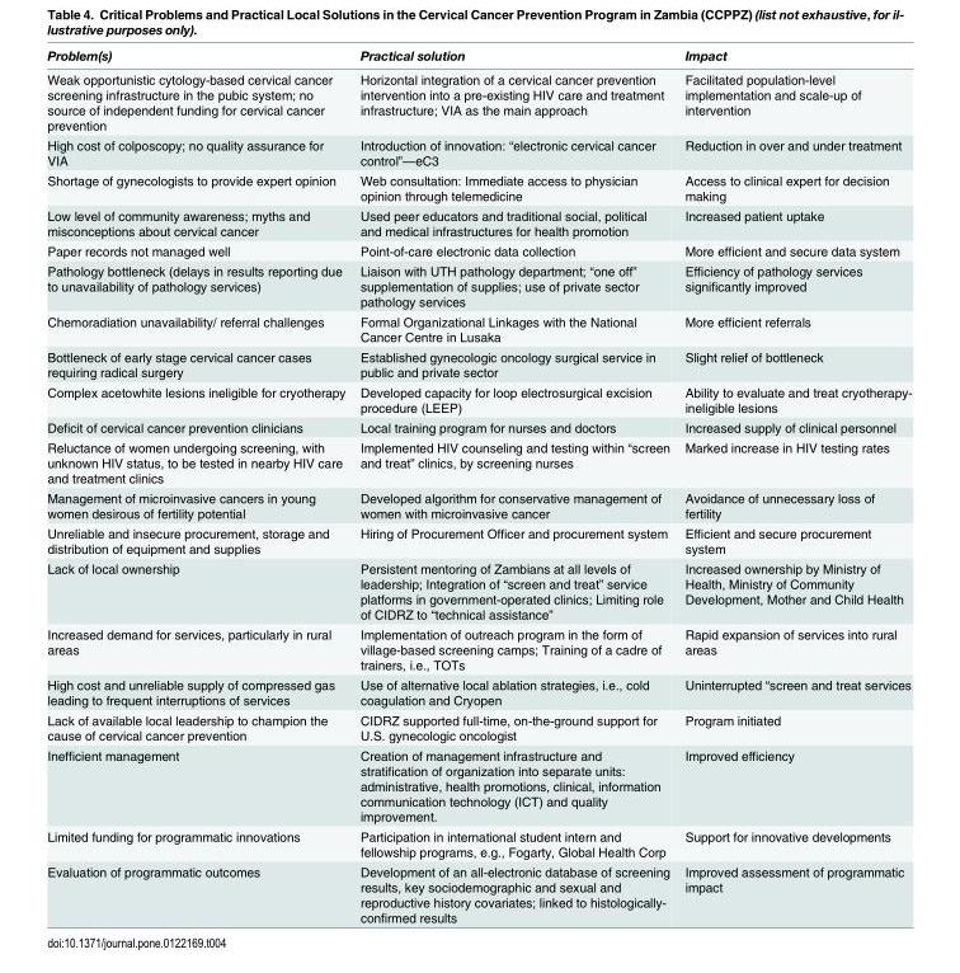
<table><thead><tr><td>Problem(s)</td><td>Practical solution</td><td>Impact</td></tr></thead><tbody><tr><td>Weak opportunistic cytology-based cervical cancer screening infrastructure in the pubic system; no source of independent funding for cervical cancer prevention</td><td>Horizontal integration of a cervical cancer prevention intervention into a pre-existing HIV care and treatment infrastructure; VIA as the main approach</td><td>Facilitated population-level implementation and scale-up of intervention</td></tr><tr><td>High cost of colposcopy; no quality assurance for VIA</td><td>Introduction of innovation: “electronic cervical cancer control”—eC3</td><td>Reduction in over and under treatment</td></tr><tr><td>Shortage of gynecologists to provide expert opinion</td><td>Web consultation: Immediate access to physician opinion through telemedicine</td><td>Access to clinical expert for decision making</td></tr><tr><td>Low level of community awareness; myths and misconceptions about cervical cancer</td><td>Used peer educators and traditional social, political and medical infrastructures for health promotion</td><td>Increased patient uptake</td></tr><tr><td>Paper records not managed well</td><td>Point-of-care electronic data collection</td><td>More efficient and secure data system</td></tr><tr><td>Pathology bottleneck (delays in results reporting due to unavailability of pathology services)</td><td>Liaison with UTH pathology department; “one off” supplementation of supplies; use of private sector pathology services</td><td>Efficiency of pathology services significantly improved</td></tr><tr><td>Chemoradiation unavailability/ referral challenges</td><td>Formal Organizational Linkages with the National Cancer Centre in Lusaka</td><td>More efficient referrals</td></tr><tr><td>Bottleneck of early stage cervical cancer cases requiring radical surgery</td><td>Established gynecologic oncology surgical service in public and private sector</td><td>Slight relief of bottleneck</td></tr><tr><td>Complex acetowhite lesions ineligible for cryotherapy</td><td>Developed capacity for loop electrosurgical excision procedure (LEEP)</td><td>Ability to evaluate and treat cryotherapy- ineligible lesions</td></tr><tr><td>Deficit of cervical cancer prevention clinicians</td><td>Local training program for nurses and doctors</td><td>Increased supply of clinical personnel</td></tr><tr><td>Reluctance of women undergoing screening, with unknown HIV status, to be tested in nearby HIV care and treatment clinics</td><td>Implemented HIV counseling and testing within “screen and treat” clinics, by screening nurses</td><td>Marked increase in HIV testing rates</td></tr><tr><td>Management of microinvasive cancers in young women desirous of fertility potential</td><td>Developed algorithm for conservative management of women with microinvasive cancer</td><td>Avoidance of unnecessary loss of fertility</td></tr><tr><td>Unreliable and insecure procurement, storage and distribution of equipment and supplies</td><td>Hiring of Procurement Officer and procurement system</td><td>Efficient and secure procurement system</td></tr><tr><td>Lack of local ownership</td><td>Persistent mentoring of Zambians at all levels of leadership; Integration of “screen and treat” service platforms in government-operated clinics; Limiting role of CIDRZ to “technical assistance”</td><td>Increased ownership by Ministry of Health, Ministry of Community Development, Mother and Child Health</td></tr><tr><td>Increased demand for services, particularly in rural areas</td><td>Implementation of outreach program in the form of village-based screening camps; Training of a cadre of trainers, i.e., TOTs</td><td>Rapid expansion of services into rural areas</td></tr><tr><td>High cost and unreliable supply of compressed gas leading to frequent interruptions of services</td><td>Use of alternative local ablation strategies, i.e., cold coagulation and Cryopen</td><td>Uninterrupted “screen and treat services</td></tr><tr><td>Lack of available local leadership to champion the cause of cervical cancer prevention</td><td>CIDRZ supported full-time, on-the-ground support for U.S. gynecologic oncologist</td><td>Program initiated</td></tr><tr><td>Inefficient management</td><td>Creation of management infrastructure and stratification of organization into separate units: administrative, health promotions, clinical, information communication technology (ICT) and quality improvement.</td><td>Improved efficiency</td></tr><tr><td>Limited funding for programmatic innovations</td><td>Participation in international student intern and fellowship programs, e.g., Fogarty, Global Health Corp</td><td>Support for innovative developments</td></tr><tr><td>Evaluation of programmatic outcomes</td><td>Development of an all-electronic database of screening results, key sociodemographic and sexual and reproductive history covariates; linked to histologically- confirmed results</td><td>Improved assessment of programmatic impact</td></tr></tbody></table>